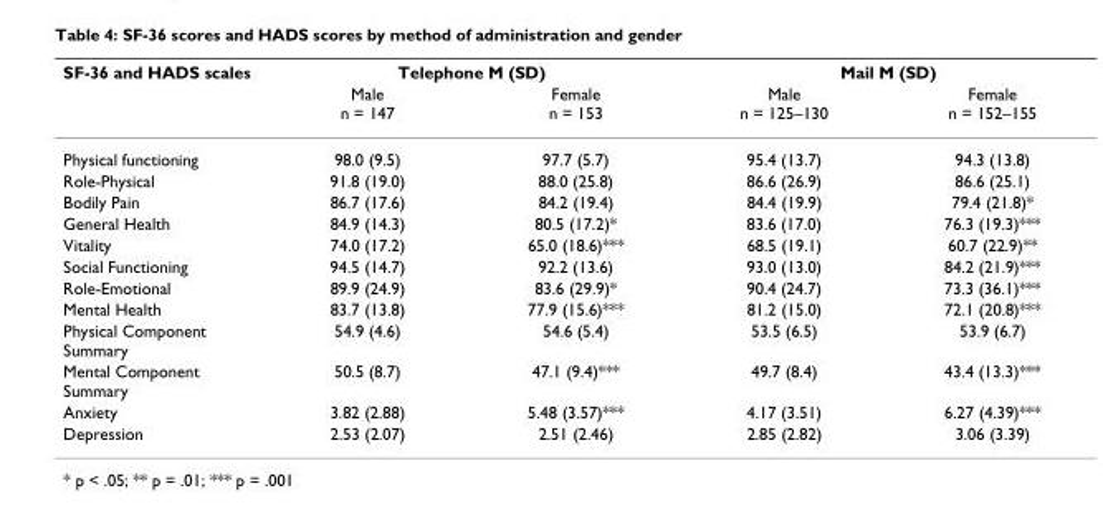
<table><thead><tr><td rowspan="2">SF-36 and HADS scales</td><td colspan="2">Telephone M (SD)</td><td colspan="2">Mail M (SD)</td></tr><tr><td>Male n = 147</td><td>Female n = 153</td><td>Male n = 125–130</td><td>Female n = 152–155</td></tr></thead><tbody><tr><td>Physical functioning</td><td>98.0 (9.5)</td><td>97.7 (5.7)</td><td>95.4 (13.7)</td><td>94.3 (13.8)</td></tr><tr><td>Role-Physical</td><td>91.8 (19.0)</td><td>88.0 (25.8)</td><td>86.6 (26.9)</td><td>86.6 (25.1)</td></tr><tr><td>Bodily Pain</td><td>86.7 (17.6)</td><td>84.2 (19.4)</td><td>84.4 (19.9)</td><td>79.4 (21.8)*</td></tr><tr><td>General Health</td><td>84.9 (14.3)</td><td>80.5 (17.2)*</td><td>83.6 (17.0)</td><td>76.3 (19.3)***</td></tr><tr><td>Vitality</td><td>74.0 (17.2)</td><td>65.0 (18.6)***</td><td>68.5 (19.1)</td><td>60.7 (22.9)**</td></tr><tr><td>Social Functioning</td><td>94.5 (14.7)</td><td>92.2 (13.6)</td><td>93.0 (13.0)</td><td>84.2 (21.9)***</td></tr><tr><td>Role-Emotional</td><td>89.9 (24.9)</td><td>83.6 (29.9)*</td><td>90.4 (24.7)</td><td>73.3 (36.1)***</td></tr><tr><td>Mental Health</td><td>83.7 (13.8)</td><td>77.9 (15.6)***</td><td>81.2 (15.0)</td><td>72.1 (20.8)***</td></tr><tr><td>Physical Component Summary</td><td>54.9 (4.6)</td><td>54.6 (5.4)</td><td>53.5 (6.5)</td><td>53.9 (6.7)</td></tr><tr><td>Mental Component Summary</td><td>50.5 (8.7)</td><td>47.1 (9.4)***</td><td>49.7 (8.4)</td><td>43.4 (13.3)***</td></tr><tr><td>Anxiety</td><td>3.82 (2.88)</td><td>5.48 (3.57)***</td><td>4.17 (3.51)</td><td>6.27 (4.39)***</td></tr><tr><td>Depression</td><td>2.53 (2.07)</td><td>2.51 (2.46)</td><td>2.85 (2.82)</td><td>3.06 (3.39)</td></tr></tbody></table>